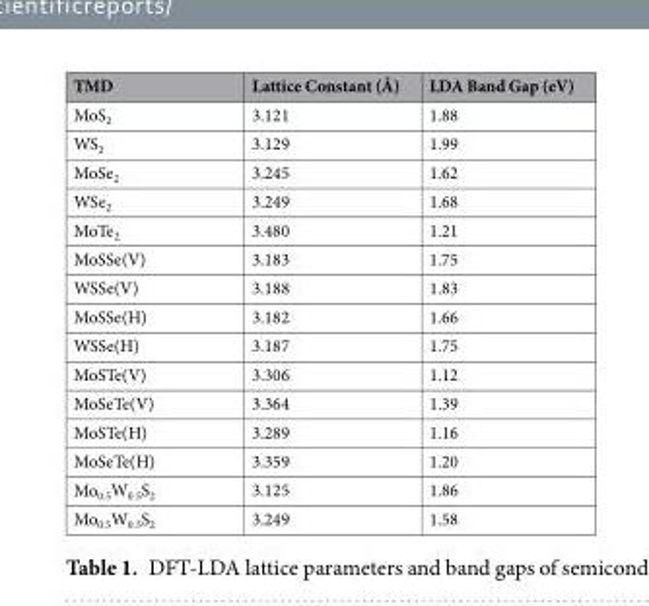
<table><thead><tr><td>TMD</td><td>Lattice Constant (Å)</td><td>LDA Band Gap (eV)</td></tr></thead><tbody><tr><td>MoS<sub>2</sub></td><td>3.121</td><td>1.88</td></tr><tr><td>WS<sub>2</sub></td><td>3.129</td><td>1.99</td></tr><tr><td>MoSe<sub>2</sub></td><td>3.245</td><td>1.62</td></tr><tr><td>WSe<sub>2</sub></td><td>3.249</td><td>1.68</td></tr><tr><td>MoTe<sub>2</sub></td><td>3.480</td><td>1.21</td></tr><tr><td>MoSSe(V)</td><td>3.183</td><td>1.75</td></tr><tr><td>WSSe(V)</td><td>3.188</td><td>1.83</td></tr><tr><td>MoSSe(H)</td><td>3.182</td><td>1.66</td></tr><tr><td>WSSe(H)</td><td>3.187</td><td>1.75</td></tr><tr><td>MoSTe(V)</td><td>3.306</td><td>1.12</td></tr><tr><td>MoSeTe(V)</td><td>3.364</td><td>1.39</td></tr><tr><td>MoSTe(H)</td><td>3.289</td><td>1.16</td></tr><tr><td>MoSeTe(H)</td><td>3.359</td><td>1.20</td></tr><tr><td>Mo<sub>0.5</sub>W<sub>0.5</sub>S<sub>2</sub></td><td>3.125</td><td>1.86</td></tr><tr><td>Mo<sub>0.5</sub>W<sub>0.5</sub>S<sub>2</sub></td><td>3.249</td><td>1.58</td></tr></tbody></table>